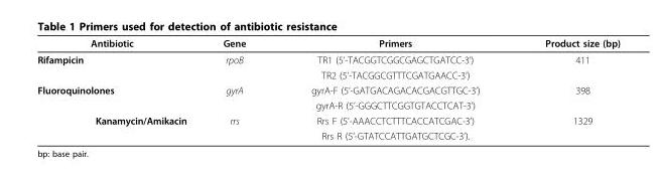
<table><thead><tr><td>Antibiotic</td><td>Gene</td><td>Primers</td><td>Product size (bp)</td></tr></thead><tbody><tr><td rowspan="2">Rifampicin</td><td>rpoB</td><td>TR1 (5’-TACGGTCGGCGAGCTGATCC-3’)</td><td>411</td></tr><tr><td></td><td>TR2 (5’-TACGGCGTTTCGATGAACC-3’)</td><td></td></tr><tr><td rowspan="2">Fluoroquinolones</td><td>gyrA</td><td>gyrA-F (5’-GATGACAGACACGACGTTGC-3’)</td><td>398</td></tr><tr><td></td><td>gyrA-R (5’-GGGCTTCGGTGTACCTCAT-3’)</td><td></td></tr><tr><td rowspan="2">Kanamycin/Amikacin</td><td>rrs</td><td>Rrs F (5’-AAACCTCTTTCACCATCGAC-3’)</td><td>1329</td></tr><tr><td></td><td>Rrs R (5’-GTATCCATTGATGCTCGC-3’).</td><td></td></tr></tbody></table>